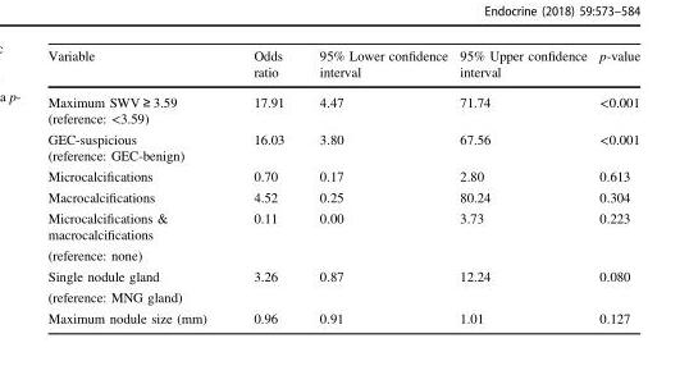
<table><thead><tr><td>Variable</td><td>Odds ratio</td><td>95% Lower confidence interval</td><td>95% Upper confidence interval</td><td>p-value</td></tr></thead><tbody><tr><td>Maximum SWV ≥ 3.59 (reference: &lt;3.59)</td><td>17.91</td><td>4.47</td><td>71.74</td><td>&lt;0.001</td></tr><tr><td>GEC-suspicious (reference: GEC-benign)</td><td>16.03</td><td>3.80</td><td>67.56</td><td>&lt;0.001</td></tr><tr><td>Microcalcifications</td><td>0.70</td><td>0.17</td><td>2.80</td><td>0.613</td></tr><tr><td>Macrocalcifications</td><td>4.52</td><td>0.25</td><td>80.24</td><td>0.304</td></tr><tr><td>Microcalcifications &amp; macrocalcifications</td><td>0.11</td><td>0.00</td><td>3.73</td><td>0.223</td></tr><tr><td colspan="5">(reference: none)</td></tr><tr><td>Single nodule gland</td><td>3.26</td><td>0.87</td><td>12.24</td><td>0.080</td></tr><tr><td colspan="5">(reference: MNG gland)</td></tr><tr><td>Maximum nodule size (mm)</td><td>0.96</td><td>0.91</td><td>1.01</td><td>0.127</td></tr></tbody></table>